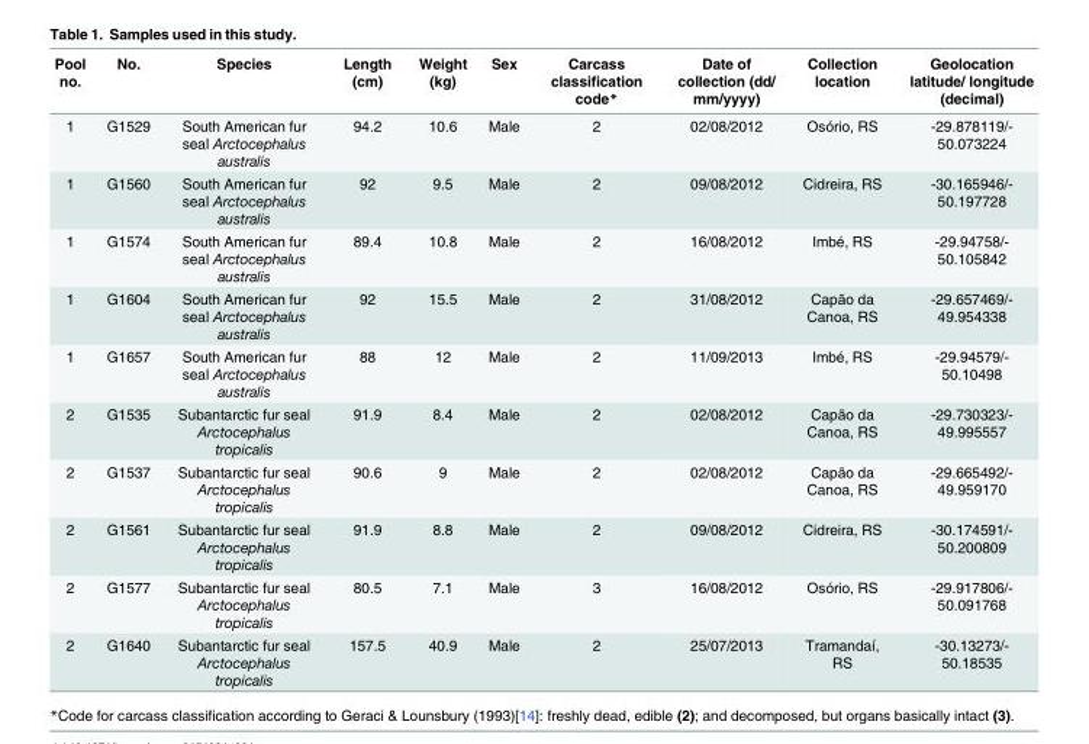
<table><thead><tr><td>Pool no.</td><td>No.</td><td>Species</td><td>Length (cm)</td><td>Weight (kg)</td><td>Sex</td><td>Carcass classification code*</td><td>Date of collection (dd/ mm/yyyy)</td><td>Collection location</td><td>Geolocation latitude/ longitude (decimal)</td></tr></thead><tbody><tr><td>1</td><td>G1529</td><td>South American fur seal Arctocephalus australis</td><td>94.2</td><td>10.6</td><td>Male</td><td>2</td><td>02/08/2012</td><td>Osório, RS</td><td>-29.878119/- 50.073224</td></tr><tr><td>1</td><td>G1560</td><td>South American fur seal Arctocephalus australis</td><td>92</td><td>9.5</td><td>Male</td><td>2</td><td>09/08/2012</td><td>Cidreira, RS</td><td>-30.165946/- 50.197728</td></tr><tr><td>1</td><td>G1574</td><td>South American fur seal Arctocephalus australis</td><td>89.4</td><td>10.8</td><td>Male</td><td>2</td><td>16/08/2012</td><td>Imbé, RS</td><td>-29.94758/- 50.105842</td></tr><tr><td>1</td><td>G1604</td><td>South American fur seal Arctocephalus australis</td><td>92</td><td>15.5</td><td>Male</td><td>2</td><td>31/08/2012</td><td>Capão da Canoa, RS</td><td>-29.657469/- 49.954338</td></tr><tr><td>1</td><td>G1657</td><td>South American fur seal Arctocephalus australis</td><td>88</td><td>12</td><td>Male</td><td>2</td><td>11/09/2013</td><td>Imbé, RS</td><td>-29.94579/- 50.10498</td></tr><tr><td>2</td><td>G1535</td><td>Subantarctic fur seal Arctocephalus tropicalis</td><td>91.9</td><td>8.4</td><td>Male</td><td>2</td><td>02/08/2012</td><td>Capão da Canoa, RS</td><td>-29.730323/- 49.995557</td></tr><tr><td>2</td><td>G1537</td><td>Subantarctic fur seal Arctocephalus tropicalis</td><td>90.6</td><td>9</td><td>Male</td><td>2</td><td>02/08/2012</td><td>Capão da Canoa, RS</td><td>-29.665492/- 49.959170</td></tr><tr><td>2</td><td>G1561</td><td>Subantarctic fur seal Arctocephalus tropicalis</td><td>91.9</td><td>8.8</td><td>Male</td><td>2</td><td>09/08/2012</td><td>Cidreira, RS</td><td>-30.174591/- 50.200809</td></tr><tr><td>2</td><td>G1577</td><td>Subantarctic fur seal Arctocephalus tropicalis</td><td>80.5</td><td>7.1</td><td>Male</td><td>3</td><td>16/08/2012</td><td>Osório, RS</td><td>-29.917806/- 50.091768</td></tr><tr><td>2</td><td>G1640</td><td>Subantarctic fur seal Arctocephalus tropicalis</td><td>157.5</td><td>40.9</td><td>Male</td><td>2</td><td>25/07/2013</td><td>Tramandaí, RS</td><td>-30.13273/- 50.18535</td></tr></tbody></table>